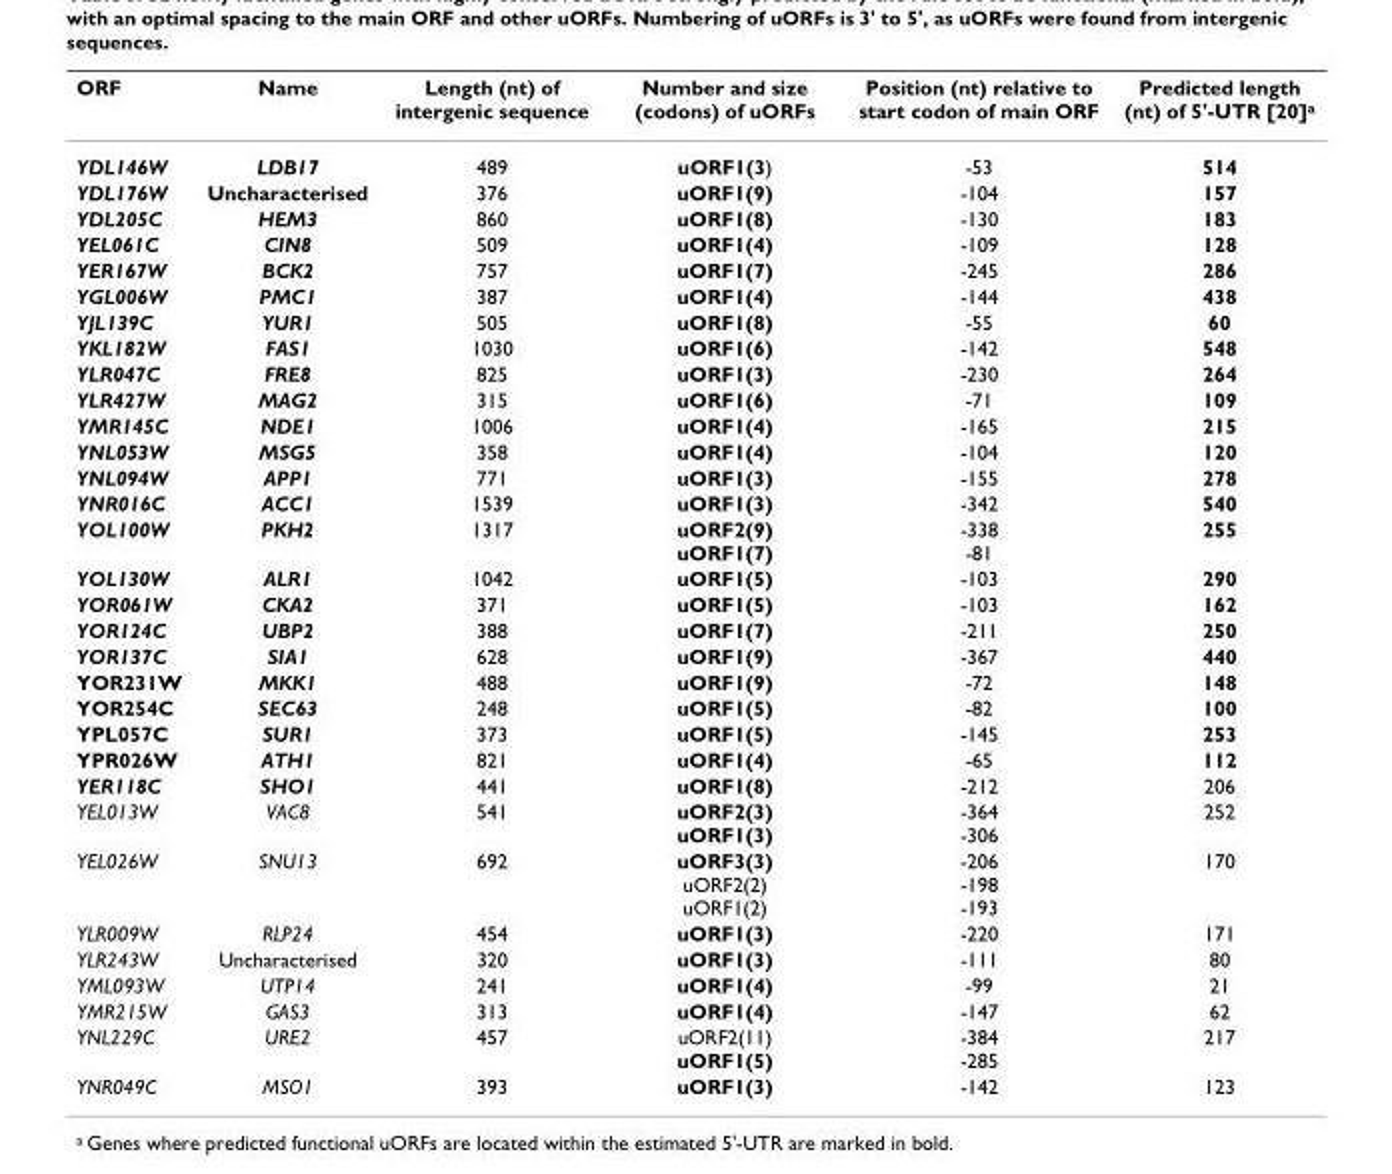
<table><thead><tr><td>ORF</td><td>Name</td><td>Length (nt) of intergenic sequence</td><td>Number and size (codons) of uORFs</td><td>Position (nt) relative to start codon of main ORF</td><td>Predicted length (nt) of 5&#x27;-UTR [20]<sup>a</sup></td></tr></thead><tbody><tr><td>YDL146W</td><td>LDB17</td><td>489</td><td>uORF1(3)</td><td>-53</td><td>514</td></tr><tr><td>YDL176W</td><td>Uncharacterised</td><td>376</td><td>uORF1(9)</td><td>-104</td><td>157</td></tr><tr><td>YDL205C</td><td>HEM3</td><td>860</td><td>uORF1(8)</td><td>-130</td><td>183</td></tr><tr><td>YEL061C</td><td>CIN8</td><td>509</td><td>uORF1(4)</td><td>-109</td><td>128</td></tr><tr><td>YER167W</td><td>BCK2</td><td>757</td><td>uORF1(7)</td><td>-245</td><td>286</td></tr><tr><td>YGL006W</td><td>PMC1</td><td>387</td><td>uORF1(4)</td><td>-144</td><td>438</td></tr><tr><td>YJL139C</td><td>YUR1</td><td>505</td><td>uORF1(8)</td><td>-55</td><td>60</td></tr><tr><td>YKL182W</td><td>FAS1</td><td>1030</td><td>uORF1(6)</td><td>-142</td><td>548</td></tr><tr><td>YLR047C</td><td>FRE8</td><td>825</td><td>uORF1(3)</td><td>-230</td><td>264</td></tr><tr><td>YLR427W</td><td>MAG2</td><td>315</td><td>uORF1(6)</td><td>-71</td><td>109</td></tr><tr><td>YMR145C</td><td>NDE1</td><td>1006</td><td>uORF1(4)</td><td>-165</td><td>215</td></tr><tr><td>YNL053W</td><td>MSG5</td><td>358</td><td>uORF1(4)</td><td>-104</td><td>120</td></tr><tr><td>YNL094W</td><td>APP1</td><td>771</td><td>uORF1(3)</td><td>-155</td><td>278</td></tr><tr><td>YNR016C</td><td>ACC1</td><td>1539</td><td>uORF1(3)</td><td>-342</td><td>540</td></tr><tr><td>YOL100W</td><td>PKH2</td><td>1317</td><td>uORF2(9) uORF1(7)</td><td>-338 -81</td><td>255</td></tr><tr><td>YOL130W</td><td>ALR1</td><td>1042</td><td>uORF1(5)</td><td>-103</td><td>290</td></tr><tr><td>YOR061W</td><td>CKA2</td><td>371</td><td>uORF1(5)</td><td>-103</td><td>162</td></tr><tr><td>YOR124C</td><td>UBP2</td><td>388</td><td>uORF1(7)</td><td>-211</td><td>250</td></tr><tr><td>YOR137C</td><td>SIA1</td><td>628</td><td>uORF1(9)</td><td>-367</td><td>440</td></tr><tr><td>YOR231W</td><td>MKK1</td><td>488</td><td>uORF1(9)</td><td>-72</td><td>148</td></tr><tr><td>YOR254C</td><td>SEC63</td><td>248</td><td>uORF1(5)</td><td>-82</td><td>100</td></tr><tr><td>YPL057C</td><td>SUR1</td><td>373</td><td>uORF1(5)</td><td>-145</td><td>253</td></tr><tr><td>YPR026W</td><td>ATH1</td><td>821</td><td>uORF1(4)</td><td>-65</td><td>112</td></tr><tr><td>YER118C</td><td>SHO1</td><td>441</td><td>uORF1(8)</td><td>-212</td><td>206</td></tr><tr><td>YEL013W</td><td>VAC8</td><td>541</td><td>uORF2(3) uORF1(3)</td><td>-364 -306</td><td>252</td></tr><tr><td>YEL026W</td><td>SNU13</td><td>692</td><td>uORF3(3) uORF2(2) uORF1(2)</td><td>-206 -198 -193</td><td>170</td></tr><tr><td>YLR009W</td><td>RLP24</td><td>454</td><td>uORF1(3)</td><td>-220</td><td>171</td></tr><tr><td>YLR243W</td><td>Uncharacterised</td><td>320</td><td>uORF1(3)</td><td>-111</td><td>80</td></tr><tr><td>YML093W</td><td>UTP14</td><td>241</td><td>uORF1(4)</td><td>-99</td><td>21</td></tr><tr><td>YMR215W</td><td>GAS3</td><td>313</td><td>uORF1(4)</td><td>-147</td><td>62</td></tr><tr><td>YNL229C</td><td>URE2</td><td>457</td><td>uORF2(11) uORF1(5)</td><td>-384 -285</td><td>217</td></tr><tr><td>YNR049C</td><td>MSO1</td><td>393</td><td>uORF1(3)</td><td>-142</td><td>123</td></tr></tbody></table>